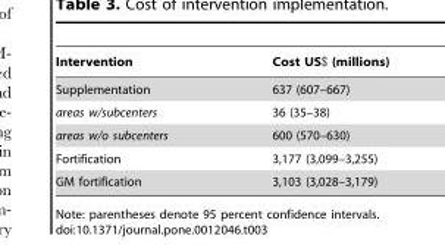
<table><thead><tr><td>Intervention</td><td>Cost US$ (millions)</td></tr></thead><tbody><tr><td>Supplementation</td><td>637 (607–667)</td></tr><tr><td>areas w/subcenters</td><td>36 (35–38)</td></tr><tr><td>areas w/o subcenters</td><td>600 (570–630)</td></tr><tr><td>Fortification</td><td>3,177 (3,099–3,255)</td></tr><tr><td>GM fortification</td><td>3,103 (3,028–3,179)</td></tr></tbody></table>